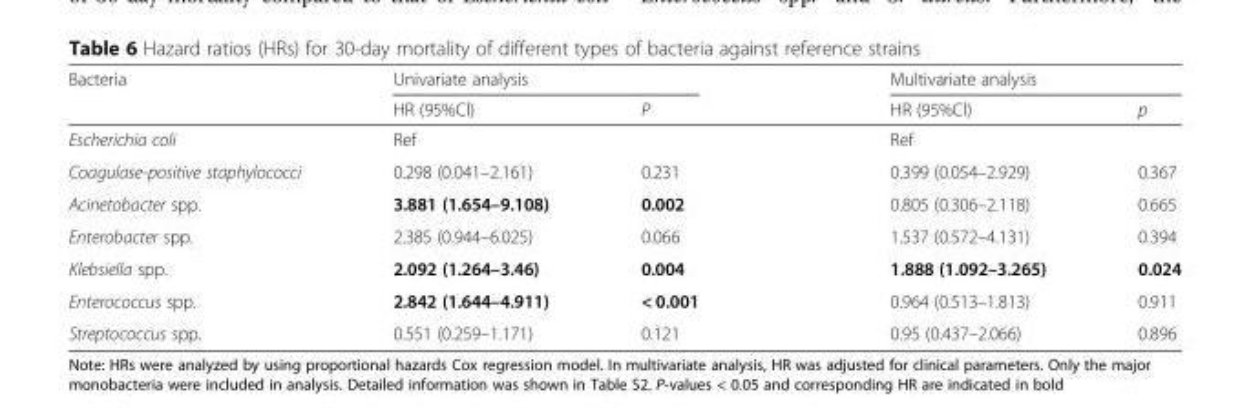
<table><thead><tr><td rowspan="2">Bacteria</td><td colspan="2">Univariate analysis</td><td colspan="2">Multivariate analysis</td></tr><tr><td>HR (95%Cl)</td><td>P</td><td>HR (95%Cl)</td><td>p</td></tr></thead><tbody><tr><td>Escherichia coli</td><td>Ref</td><td></td><td>Ref</td><td></td></tr><tr><td>Coagulase-positive staphylococci</td><td>0.298 (0.041–2.161)</td><td>0.231</td><td>0.399 (0.054–2.929)</td><td>0.367</td></tr><tr><td>Acinetobacter spp.</td><td>3.881 (1.654–9.108)</td><td>0.002</td><td>0.805 (0.306–2.118)</td><td>0.665</td></tr><tr><td>Enterobacter spp.</td><td>2.385 (0.944–6.025)</td><td>0.066</td><td>1.537 (0.572–4.131)</td><td>0.394</td></tr><tr><td>Klebsiella spp.</td><td>2.092 (1.264–3.46)</td><td>0.004</td><td>1.888 (1.092–3.265)</td><td>0.024</td></tr><tr><td>Enterococcus spp.</td><td>2.842 (1.644–4.911)</td><td>&lt; 0.001</td><td>0.964 (0.513–1.813)</td><td>0.911</td></tr><tr><td>Streptococcus spp.</td><td>0.551 (0.259–1.171)</td><td>0.121</td><td>0.95 (0.437–2.066)</td><td>0.896</td></tr></tbody></table>